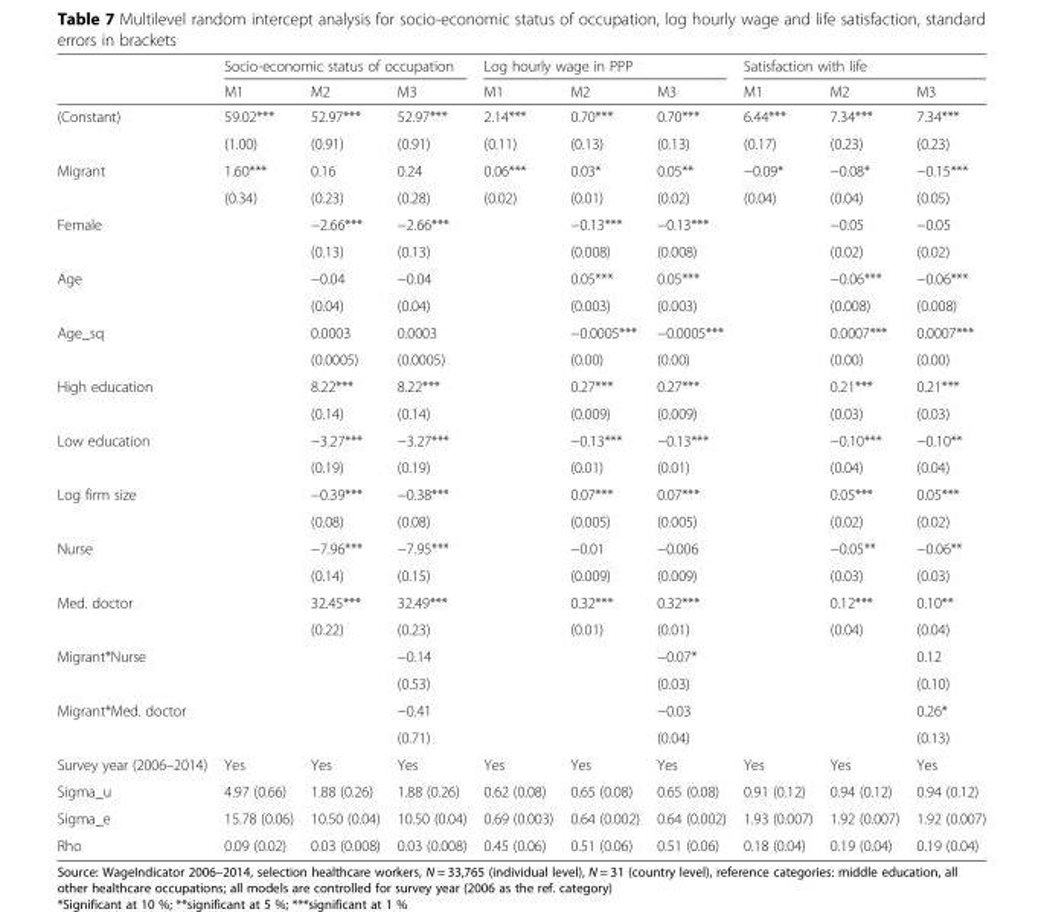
<table><thead><tr><td rowspan="2"></td><td colspan="3">Socio-economic status of occupation</td><td colspan="3">Log hourly wage in PPP</td><td colspan="3">Satisfaction with life</td></tr><tr><td>M1</td><td>M2</td><td>M3</td><td>M1</td><td>M2</td><td>M3</td><td>M1</td><td>M2</td><td>M3</td></tr></thead><tbody><tr><td rowspan="2">(Constant)</td><td>59.02***</td><td>52.97***</td><td>52.97***</td><td>2.14***</td><td>0.70***</td><td>0.70***</td><td>6.44***</td><td>7.34***</td><td>7.34***</td></tr><tr><td>(1.00)</td><td>(0.91)</td><td>(0.91)</td><td>(0.11)</td><td>(0.13)</td><td>(0.13)</td><td>(0.17)</td><td>(0.23)</td><td>(0.23)</td></tr><tr><td rowspan="2">Migrant</td><td>1.60***</td><td>0.16</td><td>0.24</td><td>0.06***</td><td>0.03*</td><td>0.05**</td><td>−0.09*</td><td>−0.08*</td><td>−0.15***</td></tr><tr><td>(0.34)</td><td>(0.23)</td><td>(0.28)</td><td>(0.02)</td><td>(0.01)</td><td>(0.02)</td><td>(0.04)</td><td>(0.04)</td><td>(0.05)</td></tr><tr><td rowspan="2">Female</td><td></td><td>−2.66***</td><td>−2.66***</td><td></td><td>−0.13***</td><td>−0.13***</td><td></td><td>−0.05</td><td>−0.05</td></tr><tr><td></td><td>(0.13)</td><td>(0.13)</td><td></td><td>(0.008)</td><td>(0.008)</td><td></td><td>(0.02)</td><td>(0.02)</td></tr><tr><td rowspan="2">Age</td><td></td><td>−0.04</td><td>−0.04</td><td></td><td>0.05***</td><td>0.05***</td><td></td><td>−0.06***</td><td>−0.06***</td></tr><tr><td></td><td>(0.04)</td><td>(0.04)</td><td></td><td>(0.003)</td><td>(0.003)</td><td></td><td>(0.008)</td><td>(0.008)</td></tr><tr><td rowspan="2">Age_sq</td><td></td><td>0.0003</td><td>0.0003</td><td></td><td>−0.0005***</td><td>−0.0005***</td><td></td><td>0.0007***</td><td>0.0007***</td></tr><tr><td></td><td>(0.0005)</td><td>(0.0005)</td><td></td><td>(0.00)</td><td>(0.00)</td><td></td><td>(0.00)</td><td>(0.00)</td></tr><tr><td rowspan="2">High education</td><td></td><td>8.22***</td><td>8.22***</td><td></td><td>0.27***</td><td>0.27***</td><td></td><td>0.21***</td><td>0.21***</td></tr><tr><td></td><td>(0.14)</td><td>(0.14)</td><td></td><td>(0.009)</td><td>(0.009)</td><td></td><td>(0.03)</td><td>(0.03)</td></tr><tr><td rowspan="2">Low education</td><td></td><td>−3.27***</td><td>−3.27***</td><td></td><td>−0.13***</td><td>−0.13***</td><td></td><td>−0.10***</td><td>−0.10**</td></tr><tr><td></td><td>(0.19)</td><td>(0.19)</td><td></td><td>(0.01)</td><td>(0.01)</td><td></td><td>(0.04)</td><td>(0.04)</td></tr><tr><td rowspan="2">Log firm size</td><td></td><td>−0.39***</td><td>−0.38***</td><td></td><td>0.07***</td><td>0.07***</td><td></td><td>0.05***</td><td>0.05***</td></tr><tr><td></td><td>(0.08)</td><td>(0.08)</td><td></td><td>(0.005)</td><td>(0.005)</td><td></td><td>(0.02)</td><td>(0.02)</td></tr><tr><td rowspan="2">Nurse</td><td></td><td>−7.96***</td><td>−7.95***</td><td></td><td>−0.01</td><td>−0.006</td><td></td><td>−0.05**</td><td>−0.06**</td></tr><tr><td></td><td>(0.14)</td><td>(0.15)</td><td></td><td>(0.009)</td><td>(0.009)</td><td></td><td>(0.03)</td><td>(0.03)</td></tr><tr><td rowspan="2">Med. doctor</td><td></td><td>32.45***</td><td>32.49***</td><td></td><td>0.32***</td><td>0.32***</td><td></td><td>0.12***</td><td>0.10**</td></tr><tr><td></td><td>(0.22)</td><td>(0.23)</td><td></td><td>(0.01)</td><td>(0.01)</td><td></td><td>(0.04)</td><td>(0.04)</td></tr><tr><td rowspan="2">Migrant*Nurse</td><td></td><td></td><td>−0.14</td><td></td><td></td><td>−0.07*</td><td></td><td></td><td>0.12</td></tr><tr><td></td><td></td><td>(0.53)</td><td></td><td></td><td>(0.03)</td><td></td><td></td><td>(0.10)</td></tr><tr><td rowspan="2">Migrant*Med. doctor</td><td></td><td></td><td>−0.41</td><td></td><td></td><td>−0.03</td><td></td><td></td><td>0.26*</td></tr><tr><td></td><td></td><td>(0.71)</td><td></td><td></td><td>(0.04)</td><td></td><td></td><td>(0.13)</td></tr><tr><td>Survey year (2006–2014)</td><td>Yes</td><td>Yes</td><td>Yes</td><td>Yes</td><td>Yes</td><td>Yes</td><td>Yes</td><td>Yes</td><td>Yes</td></tr><tr><td>Sigma_u</td><td>4.97 (0.66)</td><td>1.88 (0.26)</td><td>1.88 (0.26)</td><td>0.62 (0.08)</td><td>0.65 (0.08)</td><td>0.65 (0.08)</td><td>0.91 (0.12)</td><td>0.94 (0.12)</td><td>0.94 (0.12)</td></tr><tr><td>Sigma_e</td><td>15.78 (0.06)</td><td>10.50 (0.04)</td><td>10.50 (0.04)</td><td>0.69 (0.003)</td><td>0.64 (0.002)</td><td>0.64 (0.002)</td><td>1.93 (0.007)</td><td>1.92 (0.007)</td><td>1.92 (0.007)</td></tr><tr><td>Rho</td><td>0.09 (0.02)</td><td>0.03 (0.008)</td><td>0.03 (0.008)</td><td>0.45 (0.06)</td><td>0.51 (0.06)</td><td>0.51 (0.06)</td><td>0.18 (0.04)</td><td>0.19 (0.04)</td><td>0.19 (0.04)</td></tr></tbody></table>